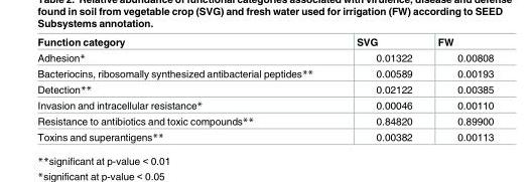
<table><thead><tr><td>Function category</td><td>SVG</td><td>FW</td></tr></thead><tbody><tr><td>Adhesion*</td><td>0.01322</td><td>0.00808</td></tr><tr><td>Bacteriocins, ribosomally synthesized antibacterial peptides**</td><td>0.00589</td><td>0.00193</td></tr><tr><td>Detection**</td><td>0.02122</td><td>0.00385</td></tr><tr><td>Invasion and intracellular resistance*</td><td>0.00046</td><td>0.00110</td></tr><tr><td>Resistance to antibiotics and toxic compounds**</td><td>0.84820</td><td>0.89900</td></tr><tr><td>Toxins and superantigens**</td><td>0.00382</td><td>0.00113</td></tr></tbody></table>